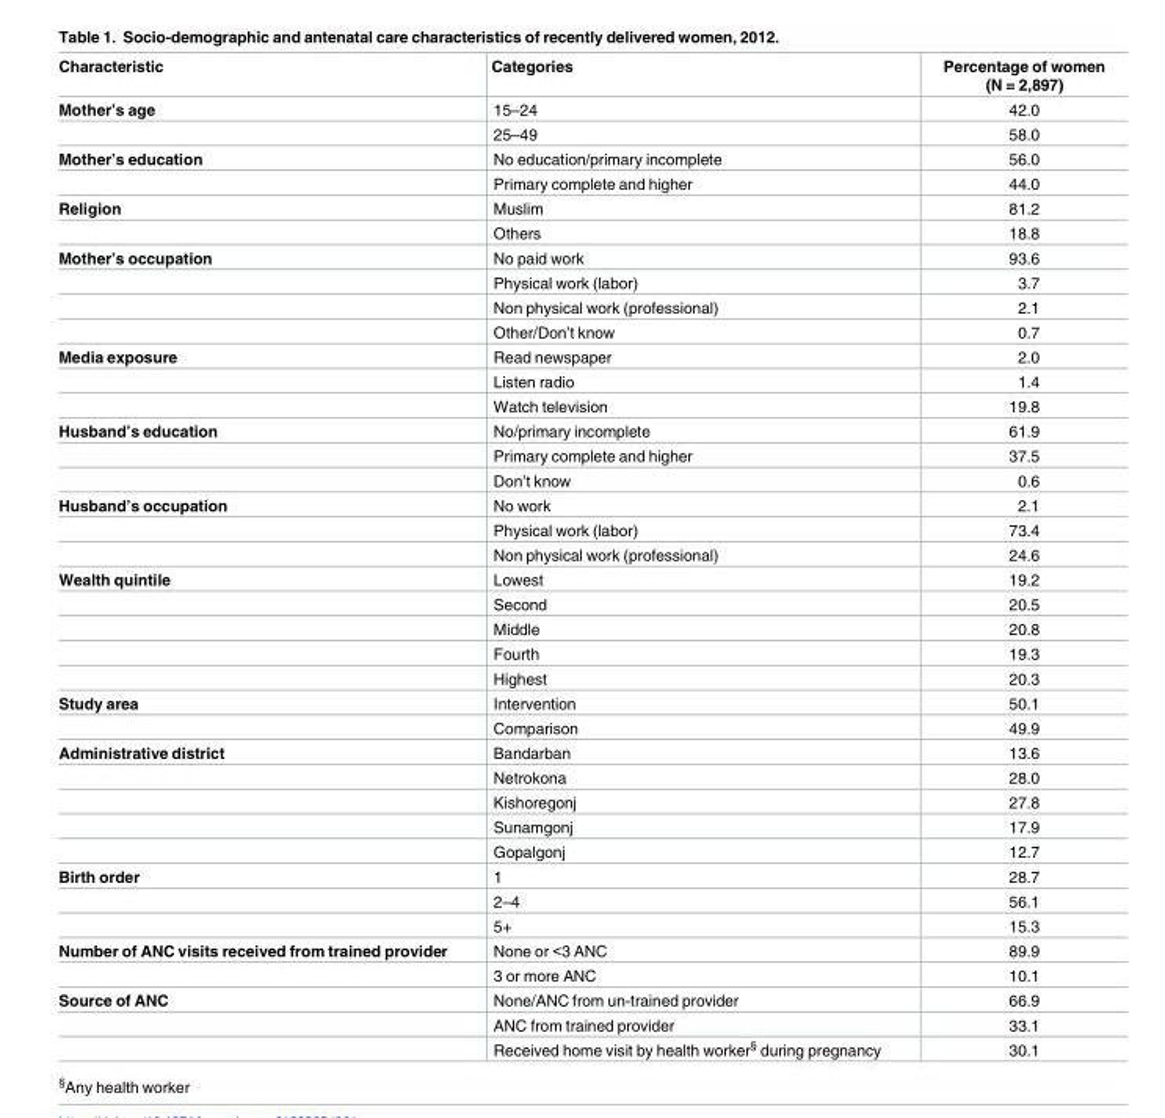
<table><thead><tr><td>Characteristic</td><td>Categories</td><td>Percentage of women (N = 2,897)</td></tr></thead><tbody><tr><td rowspan="2">Mother’s age</td><td>15–24</td><td>42.0</td></tr><tr><td>25–49</td><td>58.0</td></tr><tr><td rowspan="2">Mother’s education</td><td>No education/primary incomplete</td><td>56.0</td></tr><tr><td>Primary complete and higher</td><td>44.0</td></tr><tr><td rowspan="2">Religion</td><td>Muslim</td><td>81.2</td></tr><tr><td>Others</td><td>18.8</td></tr><tr><td rowspan="4">Mother’s occupation</td><td>No paid work</td><td>93.6</td></tr><tr><td>Physical work (labor)</td><td>3.7</td></tr><tr><td>Non physical work (professional)</td><td>2.1</td></tr><tr><td>Other/Don’t know</td><td>0.7</td></tr><tr><td rowspan="3">Media exposure</td><td>Read newspaper</td><td>2.0</td></tr><tr><td>Listen radio</td><td>1.4</td></tr><tr><td>Watch television</td><td>19.8</td></tr><tr><td rowspan="3">Husband’s education</td><td>No/primary incomplete</td><td>61.9</td></tr><tr><td>Primary complete and higher</td><td>37.5</td></tr><tr><td>Don’t know</td><td>0.6</td></tr><tr><td rowspan="3">Husband’s occupation</td><td>No work</td><td>2.1</td></tr><tr><td>Physical work (labor)</td><td>73.4</td></tr><tr><td>Non physical work (professional)</td><td>24.6</td></tr><tr><td rowspan="5">Wealth quintile</td><td>Lowest</td><td>19.2</td></tr><tr><td>Second</td><td>20.5</td></tr><tr><td>Middle</td><td>20.8</td></tr><tr><td>Fourth</td><td>19.3</td></tr><tr><td>Highest</td><td>20.3</td></tr><tr><td rowspan="2">Study area</td><td>Intervention</td><td>50.1</td></tr><tr><td>Comparison</td><td>49.9</td></tr><tr><td rowspan="5">Administrative district</td><td>Bandarban</td><td>13.6</td></tr><tr><td>Netrokona</td><td>28.0</td></tr><tr><td>Kishoregonj</td><td>27.8</td></tr><tr><td>Sunamgonj</td><td>17.9</td></tr><tr><td>Gopalgonj</td><td>12.7</td></tr><tr><td rowspan="3">Birth order</td><td>1</td><td>28.7</td></tr><tr><td>2–4</td><td>56.1</td></tr><tr><td>5+</td><td>15.3</td></tr><tr><td rowspan="2">Number of ANC visits received from trained provider</td><td>None or &lt;3 ANC</td><td>89.9</td></tr><tr><td>3 or more ANC</td><td>10.1</td></tr><tr><td rowspan="3">Source of ANC</td><td>None/ANC from un-trained provider</td><td>66.9</td></tr><tr><td>ANC from trained provider</td><td>33.1</td></tr><tr><td>Received home visit by health worker<sup>§</sup> during pregnancy</td><td>30.1</td></tr></tbody></table>